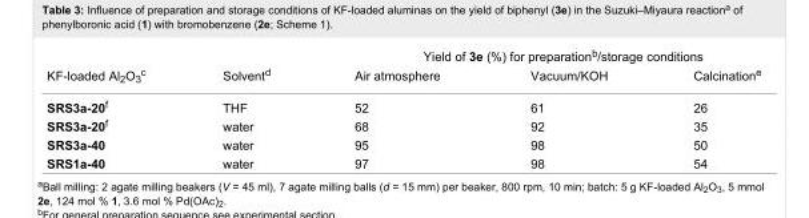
<table><thead><tr><td rowspan="2">KF-loaded Al<sub>2</sub>O<sub>3</sub><sup>c</sup></td><td rowspan="2">Solvent<sup>d</sup></td><td colspan="3">Yield of 3e (%) for preparation<sup>b</sup>/storage conditions</td></tr><tr><td>Air atmosphere</td><td>Vacuum/KOH</td><td>Calcination<sup>e</sup></td></tr></thead><tbody><tr><td>SRS3a-20<sup>f</sup></td><td>THF</td><td>52</td><td>61</td><td>26</td></tr><tr><td>SRS3a-20<sup>f</sup></td><td>water</td><td>68</td><td>92</td><td>35</td></tr><tr><td>SRS3a-40</td><td>water</td><td>95</td><td>98</td><td>50</td></tr><tr><td>SRS1a-40</td><td>water</td><td>97</td><td>98</td><td>54</td></tr></tbody></table>